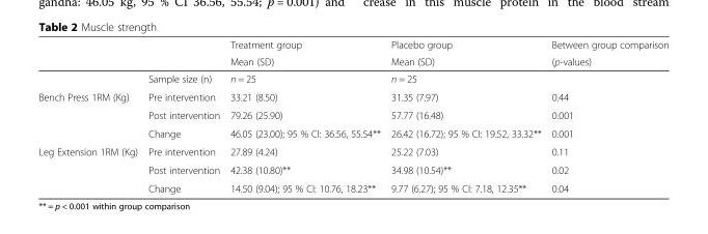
<table><thead><tr><td rowspan="2"></td><td rowspan="2"></td><td rowspan="2">Treatment group Mean (SD)</td><td rowspan="2">Placebo group Mean (SD)</td><td rowspan="2">Between group comparison (p-values)</td></tr><tr></tr></thead><tbody><tr><td></td><td>Sample size (n)</td><td>n = 25</td><td>n = 25</td><td></td></tr><tr><td rowspan="3">Bench Press 1RM (Kg)</td><td>Pre intervention</td><td>33.21 (8.50)</td><td>31.35 (7.97)</td><td>0.44</td></tr><tr><td>Post intervention</td><td>79.26 (25.90)</td><td>57.77 (16.48)</td><td>0.001</td></tr><tr><td>Change</td><td>46.05 (23.00); 95 % CI: 36.56, 55.54**</td><td>26.42 (16.72); 95 % CI: 19.52, 33.32**</td><td>0.001</td></tr><tr><td rowspan="3">Leg Extension 1RM (Kg)</td><td>Pre intervention</td><td>27.89 (4.24)</td><td>25.22 (7.03)</td><td>0.11</td></tr><tr><td>Post intervention</td><td>42.38 (10.80)**</td><td>34.98 (10.54)**</td><td>0.02</td></tr><tr><td>Change</td><td>14.50 (9.04); 95 % CI: 10.76, 18.23**</td><td>9.77 (6.27); 95 % CI: 7.18, 12.35**</td><td>0.04</td></tr></tbody></table>